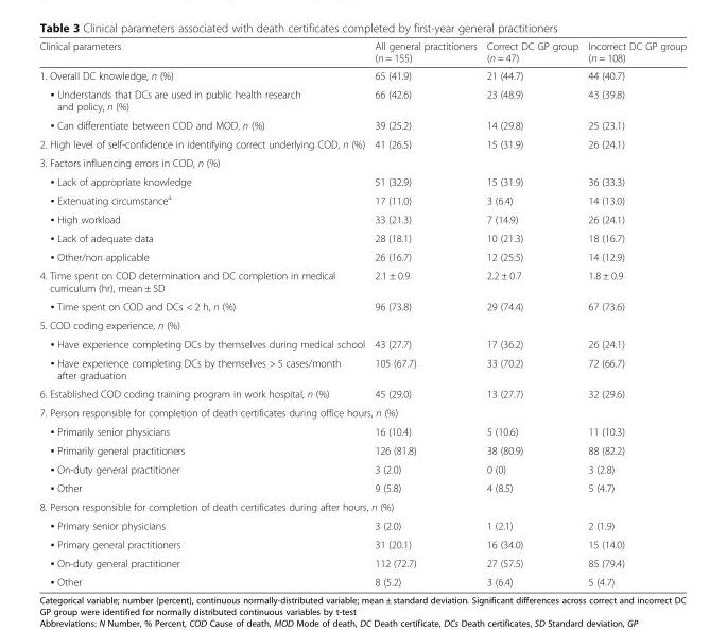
<table><thead><tr><td>Clinical parameters</td><td>All general practitioners (n = 155)</td><td>Correct DC GP group (n = 47)</td><td>Incorrect DC GP group (n = 108)</td></tr></thead><tbody><tr><td>1. Overall DC knowledge, n (%)</td><td>65 (41.9)</td><td>21 (44.7)</td><td>44 (40.7)</td></tr><tr><td>▪ Understands that DCs are used in public health research and policy, n (%)</td><td>66 (42.6)</td><td>23 (48.9)</td><td>43 (39.8)</td></tr><tr><td>▪ Can differentiate between COD and MOD, n (%)</td><td>39 (25.2)</td><td>14 (29.8)</td><td>25 (23.1)</td></tr><tr><td>2. High level of self-confidence in identifying correct underlying COD, n (%)</td><td>41 (26.5)</td><td>15 (31.9)</td><td>26 (24.1)</td></tr><tr><td colspan="4">3. Factors influencing errors in COD, n (%)</td></tr><tr><td>▪ Lack of appropriate knowledge</td><td>51 (32.9)</td><td>15 (31.9)</td><td>36 (33.3)</td></tr><tr><td>▪ Extenuating circumstance<sup>a</sup></td><td>17 (11.0)</td><td>3 (6.4)</td><td>14 (13.0)</td></tr><tr><td>▪ High workload</td><td>33 (21.3)</td><td>7 (14.9)</td><td>26 (24.1)</td></tr><tr><td>▪ Lack of adequate data</td><td>28 (18.1)</td><td>10 (21.3)</td><td>18 (16.7)</td></tr><tr><td>▪ Other/non applicable</td><td>26 (16.7)</td><td>12 (25.5)</td><td>14 (12.9)</td></tr><tr><td>4. Time spent on COD determination and DC completion in medical curriculum (hr), mean ± SD</td><td>2.1 ± 0.9</td><td>2.2 ± 0.7</td><td>1.8 ± 0.9</td></tr><tr><td>▪ Time spent on COD and DCs &lt; 2 h, n (%)</td><td>96 (73.8)</td><td>29 (74.4)</td><td>67 (73.6)</td></tr><tr><td colspan="4">5. COD coding experience, n (%)</td></tr><tr><td>▪ Have experience completing DCs by themselves during medical school</td><td>43 (27.7)</td><td>17 (36.2)</td><td>26 (24.1)</td></tr><tr><td>▪ Have experience completing DCs by themselves &gt; 5 cases/month after graduation</td><td>105 (67.7)</td><td>33 (70.2)</td><td>72 (66.7)</td></tr><tr><td>6. Established COD coding training program in work hospital, n (%)</td><td>45 (29.0)</td><td>13 (27.7)</td><td>32 (29.6)</td></tr><tr><td colspan="4">7. Person responsible for completion of death certificates during office hours, n (%)</td></tr><tr><td>▪ Primarily senior physicians</td><td>16 (10.4)</td><td>5 (10.6)</td><td>11 (10.3)</td></tr><tr><td>▪ Primarily general practitioners</td><td>126 (81.8)</td><td>38 (80.9)</td><td>88 (82.2)</td></tr><tr><td>▪ On-duty general practitioner</td><td>3 (2.0)</td><td>0 (0)</td><td>3 (2.8)</td></tr><tr><td>▪ Other</td><td>9 (5.8)</td><td>4 (8.5)</td><td>5 (4.7)</td></tr><tr><td colspan="4">8. Person responsible for completion of death certificates during after hours, n (%)</td></tr><tr><td>▪ Primary senior physicians</td><td>3 (2.0)</td><td>1 (2.1)</td><td>2 (1.9)</td></tr><tr><td>▪ Primary general practitioners</td><td>31 (20.1)</td><td>16 (34.0)</td><td>15 (14.0)</td></tr><tr><td>▪ On-duty general practitioner</td><td>112 (72.7)</td><td>27 (57.5)</td><td>85 (79.4)</td></tr><tr><td>▪ Other</td><td>8 (5.2)</td><td>3 (6.4)</td><td>5 (4.7)</td></tr></tbody></table>